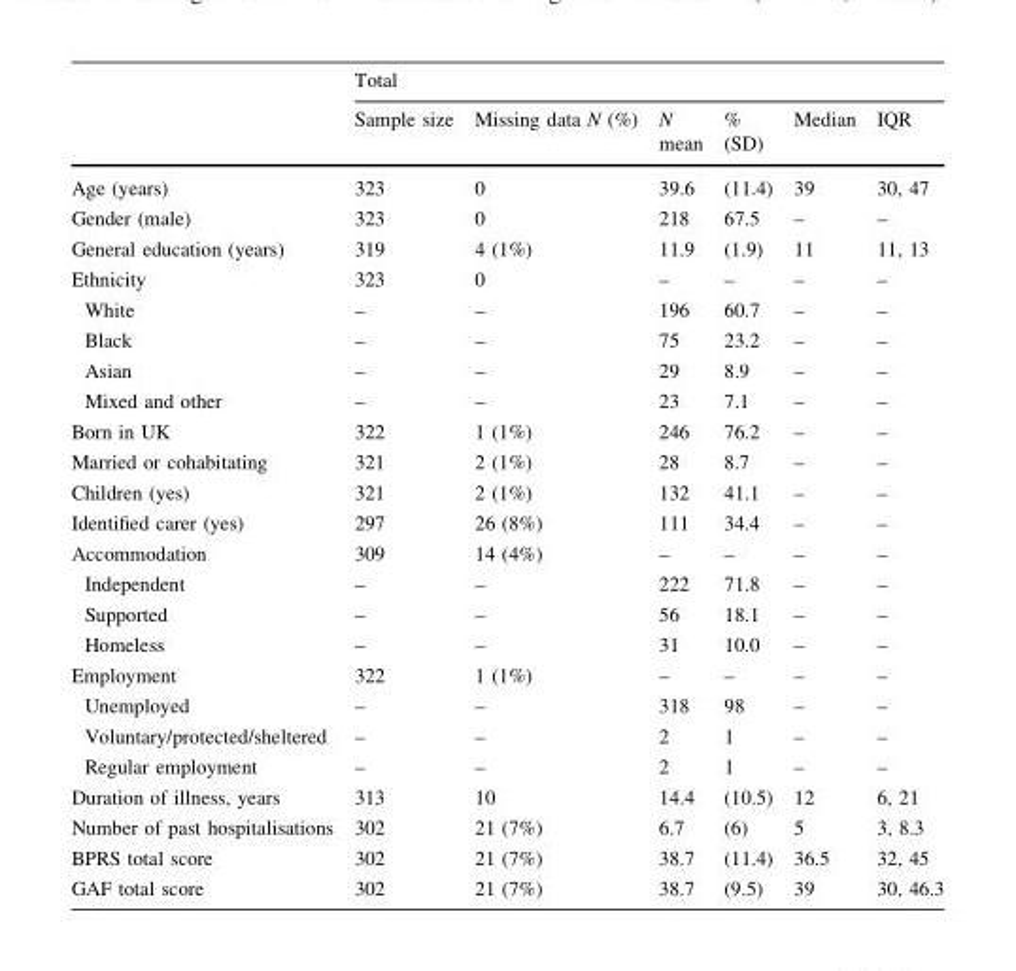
<table><thead><tr><td rowspan="2"></td><td colspan="6">Total</td></tr><tr><td>Sample size</td><td>Missing data N (%)</td><td>N mean</td><td>% (SD)</td><td>Median</td><td>IQR</td></tr></thead><tbody><tr><td>Age (years)</td><td>323</td><td>0</td><td>39.6</td><td>(11.4)</td><td>39</td><td>30, 47</td></tr><tr><td>Gender (male)</td><td>323</td><td>0</td><td>218</td><td>67.5</td><td>–</td><td>–</td></tr><tr><td>General education (years)</td><td>319</td><td>4 (1%)</td><td>11.9</td><td>(1.9)</td><td>11</td><td>11, 13</td></tr><tr><td>Ethnicity</td><td>323</td><td>0</td><td>–</td><td>–</td><td>–</td><td>–</td></tr><tr><td>White</td><td>–</td><td>–</td><td>196</td><td>60.7</td><td>–</td><td>–</td></tr><tr><td>Black</td><td>–</td><td>–</td><td>75</td><td>23.2</td><td>–</td><td>–</td></tr><tr><td>Asian</td><td>–</td><td>–</td><td>29</td><td>8.9</td><td>–</td><td>–</td></tr><tr><td>Mixed and other</td><td>–</td><td>–</td><td>23</td><td>7.1</td><td>–</td><td>–</td></tr><tr><td>Born in UK</td><td>322</td><td>1 (1%)</td><td>246</td><td>76.2</td><td>–</td><td>–</td></tr><tr><td>Married or cohabitating</td><td>321</td><td>2 (1%)</td><td>28</td><td>8.7</td><td>–</td><td>–</td></tr><tr><td>Children (yes)</td><td>321</td><td>2 (1%)</td><td>132</td><td>41.1</td><td>–</td><td>–</td></tr><tr><td>Identified carer (yes)</td><td>297</td><td>26 (8%)</td><td>111</td><td>34.4</td><td>–</td><td>–</td></tr><tr><td>Accommodation</td><td>309</td><td>14 (4%)</td><td>–</td><td>–</td><td>–</td><td>–</td></tr><tr><td>Independent</td><td>–</td><td>–</td><td>222</td><td>71.8</td><td>–</td><td>–</td></tr><tr><td>Supported</td><td>–</td><td>–</td><td>56</td><td>18.1</td><td>–</td><td>–</td></tr><tr><td>Homeless</td><td>–</td><td>–</td><td>31</td><td>10.0</td><td>–</td><td>–</td></tr><tr><td>Employment</td><td>322</td><td>1 (1%)</td><td>–</td><td>–</td><td>–</td><td>–</td></tr><tr><td>Unemployed</td><td>–</td><td>–</td><td>318</td><td>98</td><td>–</td><td>–</td></tr><tr><td>Voluntary/protected/sheltered</td><td>–</td><td>–</td><td>2</td><td>1</td><td>–</td><td>–</td></tr><tr><td>Regular employment</td><td>–</td><td>–</td><td>2</td><td>1</td><td>–</td><td>–</td></tr><tr><td>Duration of illness, years</td><td>313</td><td>10</td><td>14.4</td><td>(10.5)</td><td>12</td><td>6, 21</td></tr><tr><td>Number of past hospitalisations</td><td>302</td><td>21 (7%)</td><td>6.7</td><td>(6)</td><td>5</td><td>3, 8.3</td></tr><tr><td>BPRS total score</td><td>302</td><td>21 (7%)</td><td>38.7</td><td>(11.4)</td><td>36.5</td><td>32, 45</td></tr><tr><td>GAF total score</td><td>302</td><td>21 (7%)</td><td>38.7</td><td>(9.5)</td><td>39</td><td>30, 46.3</td></tr></tbody></table>